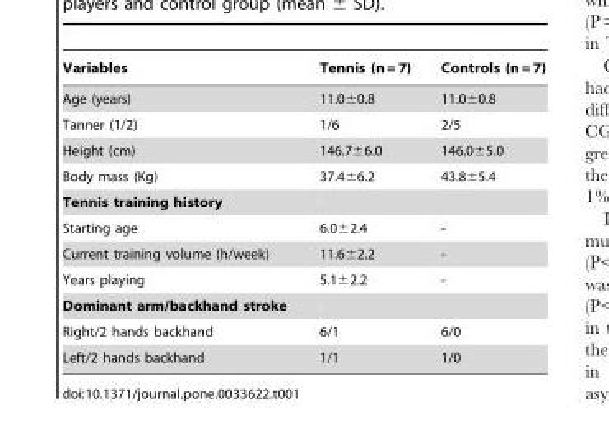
<table><thead><tr><td>Variables</td><td>Tennis (n = 7)</td><td>Controls (n = 7)</td></tr></thead><tbody><tr><td>Age (years)</td><td>11.0±0.8</td><td>11.0±0.8</td></tr><tr><td>Tanner (1/2)</td><td>1/6</td><td>2/5</td></tr><tr><td>Height (cm)</td><td>146.7±6.0</td><td>146.0±5.0</td></tr><tr><td>Body mass (Kg)</td><td>37.4±6.2</td><td>43.8±5.4</td></tr><tr><td colspan="3">Tennis training history</td></tr><tr><td>Starting age</td><td>6.0±2.4</td><td>-</td></tr><tr><td>Current training volume (h/week)</td><td>11.6±2.2</td><td>-</td></tr><tr><td>Years playing</td><td>5.1±2.2</td><td>-</td></tr><tr><td colspan="3">Dominant arm/backhand stroke</td></tr><tr><td>Right/2 hands backhand</td><td>6/1</td><td>6/0</td></tr><tr><td>Left/2 hands backhand</td><td>1/1</td><td>1/0</td></tr></tbody></table>